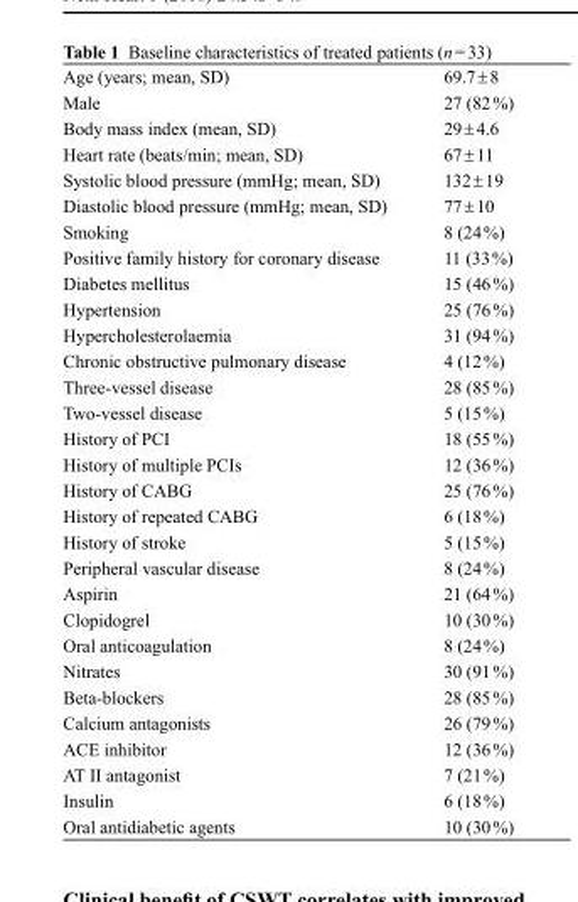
<table><tbody><tr><td>Age (years; mean, SD)</td><td>69.7 ± 8</td></tr><tr><td>Male</td><td>27 (82 %)</td></tr><tr><td>Body mass index (mean, SD)</td><td>29 ± 4.6</td></tr><tr><td>Heart rate (beats/min; mean, SD)</td><td>67 ± 11</td></tr><tr><td>Systolic blood pressure (mmHg; mean, SD)</td><td>132 ± 19</td></tr><tr><td>Diastolic blood pressure (mmHg; mean, SD)</td><td>77 ± 10</td></tr><tr><td>Smoking</td><td>8 (24 %)</td></tr><tr><td>Positive family history for coronary disease</td><td>11 (33 %)</td></tr><tr><td>Diabetes mellitus</td><td>15 (46 %)</td></tr><tr><td>Hypertension</td><td>25 (76 %)</td></tr><tr><td>Hypercholesterolaemia</td><td>31 (94 %)</td></tr><tr><td>Chronic obstructive pulmonary disease</td><td>4 (12 %)</td></tr><tr><td>Three-vessel disease</td><td>28 (85 %)</td></tr><tr><td>Two-vessel disease</td><td>5 (15 %)</td></tr><tr><td>History of PCI</td><td>18 (55 %)</td></tr><tr><td>History of multiple PCIs</td><td>12 (36 %)</td></tr><tr><td>History of CABG</td><td>25 (76 %)</td></tr><tr><td>History of repeated CABG</td><td>6 (18 %)</td></tr><tr><td>History of stroke</td><td>5 (15 %)</td></tr><tr><td>Peripheral vascular disease</td><td>8 (24 %)</td></tr><tr><td>Aspirin</td><td>21 (64 %)</td></tr><tr><td>Clopidogrel</td><td>10 (30 %)</td></tr><tr><td>Oral anticoagulation</td><td>8 (24 %)</td></tr><tr><td>Nitrates</td><td>30 (91 %)</td></tr><tr><td>Beta-blockers</td><td>28 (85 %)</td></tr><tr><td>Calcium antagonists</td><td>26 (79 %)</td></tr><tr><td>ACE inhibitor</td><td>12 (36 %)</td></tr><tr><td>AT II antagonist</td><td>7 (21 %)</td></tr><tr><td>Insulin</td><td>6 (18 %)</td></tr><tr><td>Oral antidiabetic agents</td><td>10 (30 %)</td></tr></tbody></table>